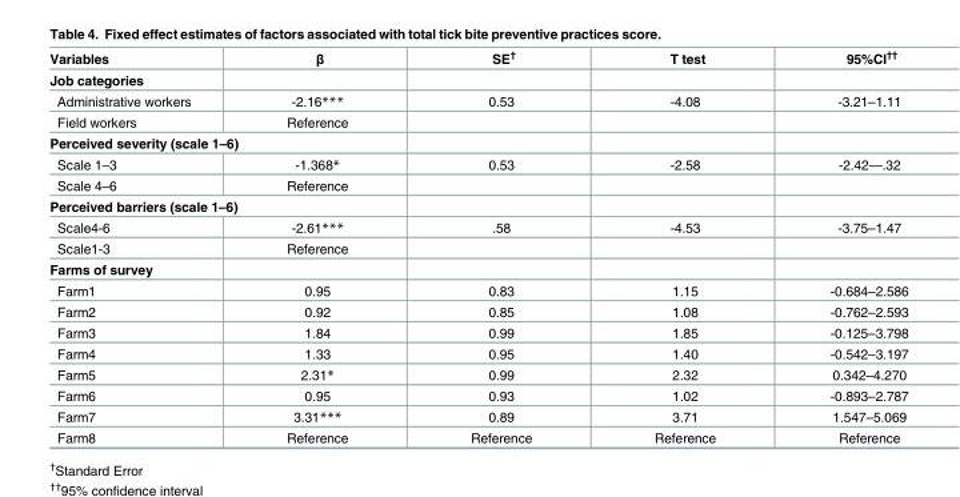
<table><thead><tr><td>Variables</td><td>β</td><td>SE<sup>†</sup></td><td>T test</td><td>95%CI<sup>††</sup></td></tr></thead><tbody><tr><td colspan="5">Job categories</td></tr><tr><td>Administrative workers</td><td>-2.16***</td><td>0.53</td><td>-4.08</td><td>-3.21–1.11</td></tr><tr><td>Field workers</td><td>Reference</td><td></td><td></td><td></td></tr><tr><td colspan="5">Perceived severity (scale 1–6)</td></tr><tr><td>Scale 1–3</td><td>-1.368*</td><td>0.53</td><td>-2.58</td><td>-2.42—.32</td></tr><tr><td>Scale 4–6</td><td>Reference</td><td></td><td></td><td></td></tr><tr><td colspan="5">Perceived barriers (scale 1–6)</td></tr><tr><td>Scale4-6</td><td>-2.61***</td><td>.58</td><td>-4.53</td><td>-3.75–1.47</td></tr><tr><td>Scale1-3</td><td>Reference</td><td></td><td></td><td></td></tr><tr><td colspan="5">Farms of survey</td></tr><tr><td>Farm1</td><td>0.95</td><td>0.83</td><td>1.15</td><td>-0.684–2.586</td></tr><tr><td>Farm2</td><td>0.92</td><td>0.85</td><td>1.08</td><td>-0.762–2.593</td></tr><tr><td>Farm3</td><td>1.84</td><td>0.99</td><td>1.85</td><td>-0.125–3.798</td></tr><tr><td>Farm4</td><td>1.33</td><td>0.95</td><td>1.40</td><td>-0.542–3.197</td></tr><tr><td>Farm5</td><td>2.31*</td><td>0.99</td><td>2.32</td><td>0.342–4.270</td></tr><tr><td>Farm6</td><td>0.95</td><td>0.93</td><td>1.02</td><td>-0.893–2.787</td></tr><tr><td>Farm7</td><td>3.31***</td><td>0.89</td><td>3.71</td><td>1.547–5.069</td></tr><tr><td>Farm8</td><td>Reference</td><td>Reference</td><td>Reference</td><td>Reference</td></tr></tbody></table>